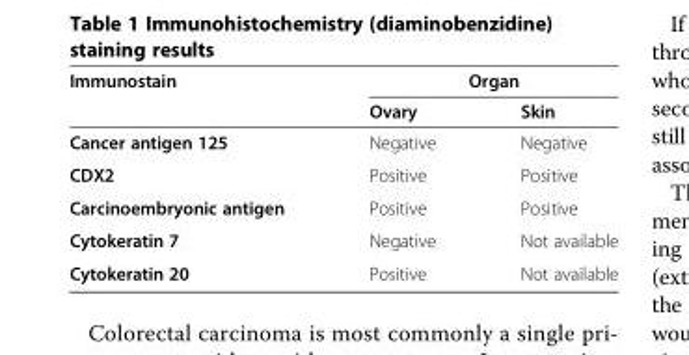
<table><thead><tr><td rowspan="2">Immunostain</td><td colspan="2">Organ</td></tr><tr><td>Ovary</td><td>Skin</td></tr></thead><tbody><tr><td>Cancer antigen 125</td><td>Negative</td><td>Negative</td></tr><tr><td>CDX2</td><td>Positive</td><td>Positive</td></tr><tr><td>Carcinoembryonic antigen</td><td>Positive</td><td>Positive</td></tr><tr><td>Cytokeratin 7</td><td>Negative</td><td>Not available</td></tr><tr><td>Cytokeratin 20</td><td>Positive</td><td>Not available</td></tr></tbody></table>